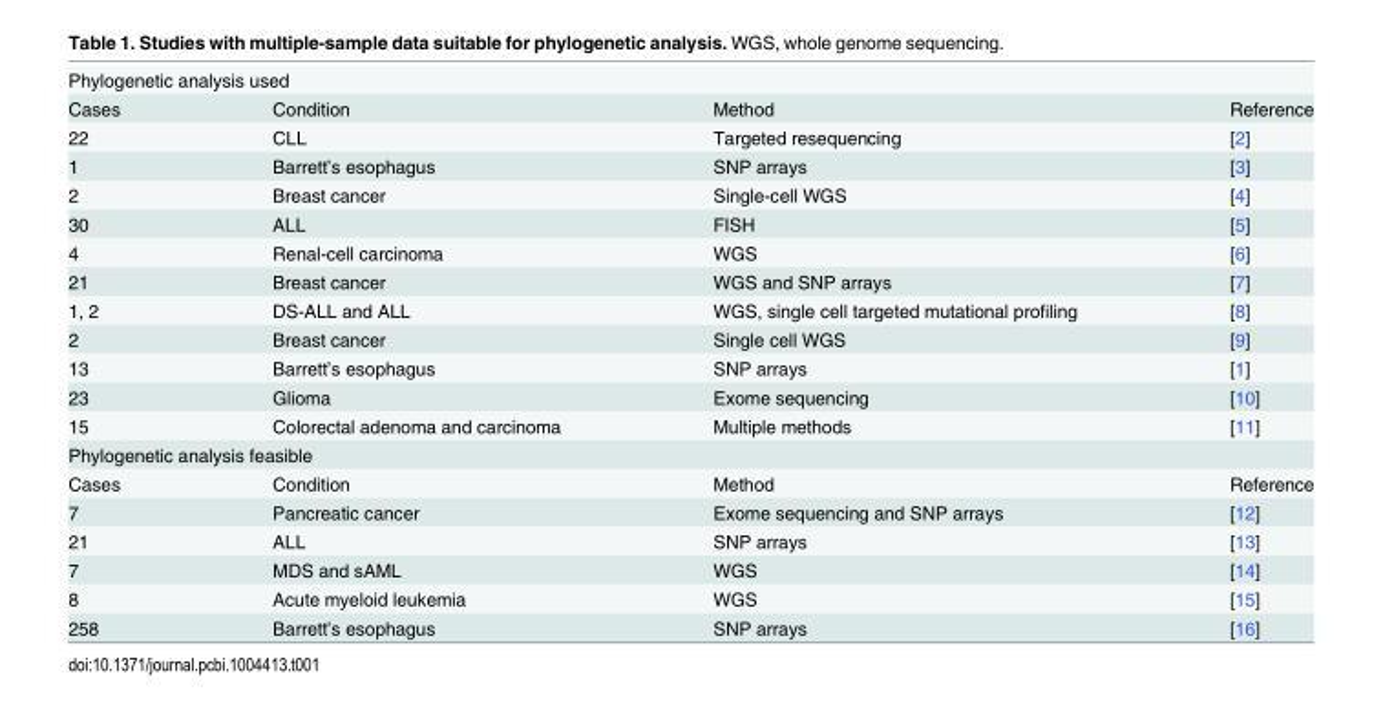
<table><tbody><tr><td colspan="4">Phylogenetic analysis used</td></tr><tr><td>Cases</td><td>Condition</td><td>Method</td><td>Reference</td></tr><tr><td>22</td><td>CLL</td><td>Targeted resequencing</td><td>[2]</td></tr><tr><td>1</td><td>Barrett’s esophagus</td><td>SNP arrays</td><td>[3]</td></tr><tr><td>2</td><td>Breast cancer</td><td>Single-cell WGS</td><td>[4]</td></tr><tr><td>30</td><td>ALL</td><td>FISH</td><td>[5]</td></tr><tr><td>4</td><td>Renal-cell carcinoma</td><td>WGS</td><td>[6]</td></tr><tr><td>21</td><td>Breast cancer</td><td>WGS and SNP arrays</td><td>[7]</td></tr><tr><td>1, 2</td><td>DS-ALL and ALL</td><td>WGS, single cell targeted mutational profiling</td><td>[8]</td></tr><tr><td>2</td><td>Breast cancer</td><td>Single cell WGS</td><td>[9]</td></tr><tr><td>13</td><td>Barrett’s esophagus</td><td>SNP arrays</td><td>[1]</td></tr><tr><td>23</td><td>Glioma</td><td>Exome sequencing</td><td>[10]</td></tr><tr><td>15</td><td>Colorectal adenoma and carcinoma</td><td>Multiple methods</td><td>[11]</td></tr><tr><td colspan="4">Phylogenetic analysis feasible</td></tr><tr><td>Cases</td><td>Condition</td><td>Method</td><td>Reference</td></tr><tr><td>7</td><td>Pancreatic cancer</td><td>Exome sequencing and SNP arrays</td><td>[12]</td></tr><tr><td>21</td><td>ALL</td><td>SNP arrays</td><td>[13]</td></tr><tr><td>7</td><td>MDS and sAML</td><td>WGS</td><td>[14]</td></tr><tr><td>8</td><td>Acute myeloid leukemia</td><td>WGS</td><td>[15]</td></tr><tr><td>258</td><td>Barrett’s esophagus</td><td>SNP arrays</td><td>[16]</td></tr></tbody></table>